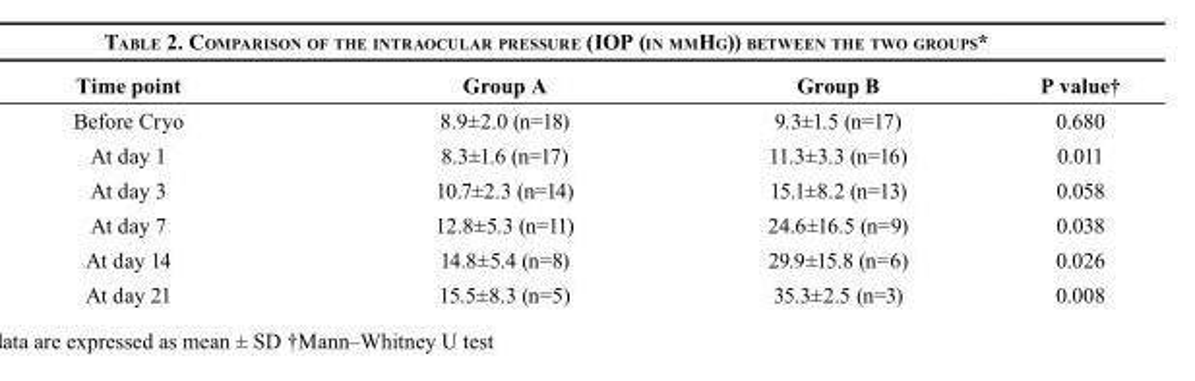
<table><thead><tr><td>Time point</td><td>Group A</td><td>Group B</td><td>P value†</td></tr></thead><tbody><tr><td>Before Cryo</td><td>8.9±2.0 (n=18)</td><td>9.3±1.5 (n=17)</td><td>0.680</td></tr><tr><td>At day 1</td><td>8.3±1.6 (n=17)</td><td>11.3±3.3 (n=16)</td><td>0.011</td></tr><tr><td>At day 3</td><td>10.7±2.3 (n=14)</td><td>15.1±8.2 (n=13)</td><td>0.058</td></tr><tr><td>At day 7</td><td>12.8±5.3 (n=11)</td><td>24.6±16.5 (n=9)</td><td>0.038</td></tr><tr><td>At day 14</td><td>14.8±5.4 (n=8)</td><td>29.9±15.8 (n=6)</td><td>0.026</td></tr><tr><td>At day 21</td><td>15.5±8.3 (n=5)</td><td>35.3±2.5 (n=3)</td><td>0.008</td></tr></tbody></table>